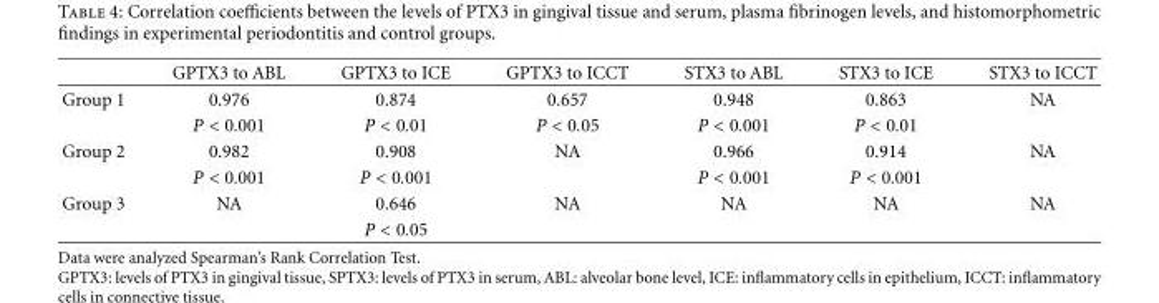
<table><thead><tr><td></td><td>GPTX3 to ABL</td><td>GPTX3 to ICE</td><td>GPTX3 to ICCT</td><td>STX3 to ABL</td><td>STX3 to ICE</td><td>STX3 to ICCT</td></tr></thead><tbody><tr><td rowspan="2">Group 1</td><td>0.976</td><td>0.874</td><td>0.657</td><td>0.948</td><td>0.863</td><td>NA</td></tr><tr><td>P &lt; 0.001</td><td>P &lt; 0.01</td><td>P &lt; 0.05</td><td>P &lt; 0.001</td><td>P &lt; 0.01</td><td></td></tr><tr><td rowspan="2">Group 2</td><td>0.982</td><td>0.908</td><td>NA</td><td>0.966</td><td>0.914</td><td>NA</td></tr><tr><td>P &lt; 0.001</td><td>P &lt; 0.001</td><td></td><td>P &lt; 0.001</td><td>P &lt; 0.001</td><td></td></tr><tr><td rowspan="2">Group 3</td><td>NA</td><td>0.646</td><td>NA</td><td>NA</td><td>NA</td><td>NA</td></tr><tr><td></td><td>P &lt; 0.05</td><td></td><td></td><td></td><td></td></tr></tbody></table>